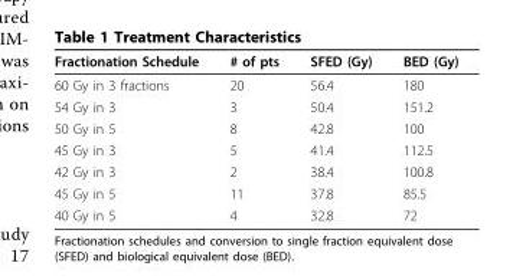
<table><thead><tr><td>Fractionation Schedule</td><td># of pts</td><td>SFED (Gy)</td><td>BED (Gy)</td></tr></thead><tbody><tr><td>60 Gy in 3 fractions</td><td>20</td><td>56.4</td><td>180</td></tr><tr><td>54 Gy in 3</td><td>3</td><td>50.4</td><td>151.2</td></tr><tr><td>50 Gy in 5</td><td>8</td><td>42.8</td><td>100</td></tr><tr><td>45 Gy in 3</td><td>5</td><td>41.4</td><td>112.5</td></tr><tr><td>42 Gy in 3</td><td>2</td><td>38.4</td><td>100.8</td></tr><tr><td>45 Gy in 5</td><td>11</td><td>37.8</td><td>85.5</td></tr><tr><td>40 Gy in 5</td><td>4</td><td>32.8</td><td>72</td></tr></tbody></table>